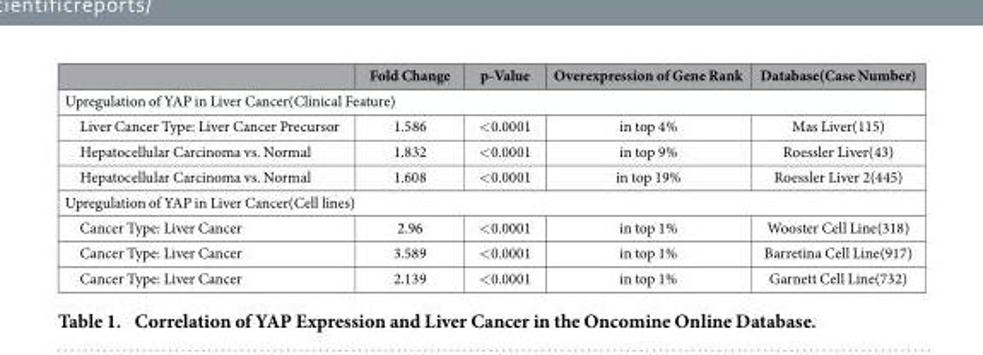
<table><thead><tr><td></td><td>Fold Change</td><td>p-Value</td><td>Overexpression of Gene Rank</td><td>Database(Case Number)</td></tr></thead><tbody><tr><td colspan="5">Upregulation of YAP in Liver Cancer(Clinical Feature)</td></tr><tr><td>Liver Cancer Type: Liver Cancer Precursor</td><td>1.586</td><td>&lt; 0.0001</td><td>in top 4%</td><td>Mas Liver(115)</td></tr><tr><td>Hepatocellular Carcinoma vs. Normal</td><td>1.832</td><td>&lt; 0.0001</td><td>in top 9%</td><td>Roessler Liver(43)</td></tr><tr><td>Hepatocellular Carcinoma vs. Normal</td><td>1.608</td><td>&lt; 0.0001</td><td>in top 19%</td><td>Roessler Liver 2(445)</td></tr><tr><td colspan="5">Upregulation of YAP in Liver Cancer(Cell lines)</td></tr><tr><td>Cancer Type: Liver Cancer</td><td>2.96</td><td>&lt; 0.0001</td><td>in top 1%</td><td>Wooster Cell Line(318)</td></tr><tr><td>Cancer Type: Liver Cancer</td><td>3.589</td><td>&lt; 0.0001</td><td>in top 1%</td><td>Barretina Cell Line(917)</td></tr><tr><td>Cancer Type: Liver Cancer</td><td>2.139</td><td>&lt; 0.0001</td><td>in top 1%</td><td>Garnett Cell Line(732)</td></tr></tbody></table>